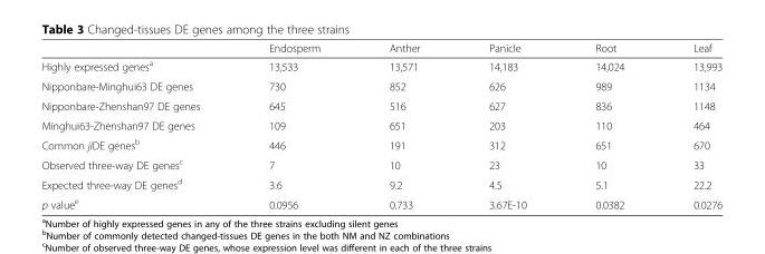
<table><thead><tr><td></td><td>Endosperm</td><td>Anther</td><td>Panicle</td><td>Root</td><td>Leaf</td></tr></thead><tbody><tr><td>Highly expressed genes<sup>a</sup></td><td>13,533</td><td>13,571</td><td>14,183</td><td>14,024</td><td>13,993</td></tr><tr><td>Nipponbare-Minghui63 DE genes</td><td>730</td><td>852</td><td>626</td><td>989</td><td>1134</td></tr><tr><td>Nipponbare-Zhenshan97 DE genes</td><td>645</td><td>516</td><td>627</td><td>836</td><td>1148</td></tr><tr><td>Minghui63-Zhenshan97 DE genes</td><td>109</td><td>651</td><td>203</td><td>110</td><td>464</td></tr><tr><td>Common jiDE genes<sup>b</sup></td><td>446</td><td>191</td><td>312</td><td>651</td><td>670</td></tr><tr><td>Observed three-way DE genes<sup>c</sup></td><td>7</td><td>10</td><td>23</td><td>10</td><td>33</td></tr><tr><td>Expected three-way DE genes<sup>d</sup></td><td>3.6</td><td>9.2</td><td>4.5</td><td>5.1</td><td>22.2</td></tr><tr><td>p value<sup>e</sup></td><td>0.0956</td><td>0.733</td><td>3.67E-10</td><td>0.0382</td><td>0.0276</td></tr></tbody></table>